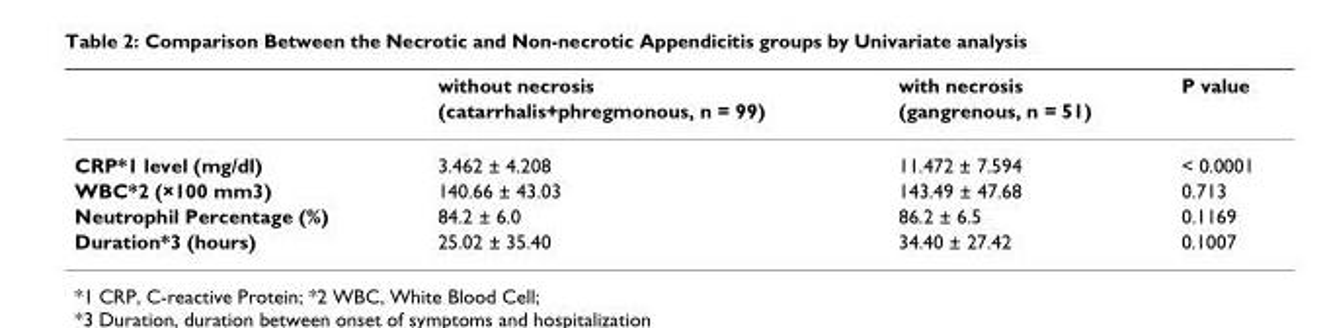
<table><thead><tr><td rowspan="2"></td><td rowspan="2">without necrosis (catarrhalis+phregmonous, n = 99)</td><td rowspan="2">with necrosis (gangrenous, n = 51)</td><td rowspan="2">P value</td></tr><tr></tr></thead><tbody><tr><td>CRP*1 level (mg/dl)</td><td>3.462 ± 4.208</td><td>11.472 ± 7.594</td><td>&lt; 0.0001</td></tr><tr><td>WBC*2 (×100 mm3)</td><td>140.66 ± 43.03</td><td>143.49 ± 47.68</td><td>0.713</td></tr><tr><td>Neutrophil Percentage (%)</td><td>84.2 ± 6.0</td><td>86.2 ± 6.5</td><td>0.1169</td></tr><tr><td>Duration*3 (hours)</td><td>25.02 ± 35.40</td><td>34.40 ± 27.42</td><td>0.1007</td></tr></tbody></table>